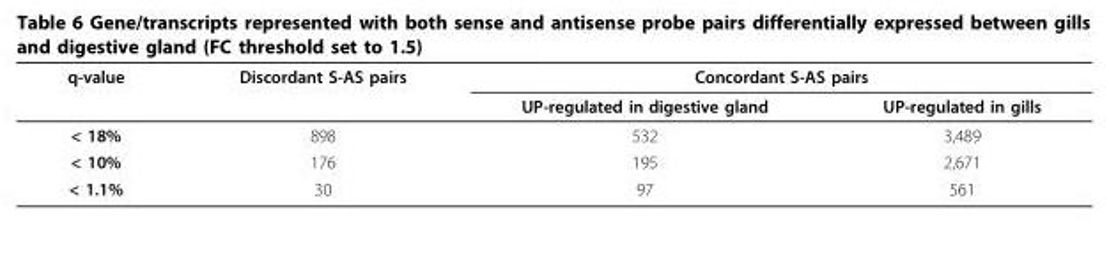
<table><thead><tr><td rowspan="2">q-value</td><td rowspan="2">Discordant S-AS pairs</td><td colspan="2">Concordant S-AS pairs</td></tr><tr><td>UP-regulated in digestive gland</td><td>UP-regulated in gills</td></tr></thead><tbody><tr><td>&lt; 18%</td><td>898</td><td>532</td><td>3,489</td></tr><tr><td>&lt; 10%</td><td>176</td><td>195</td><td>2,671</td></tr><tr><td>&lt; 1.1%</td><td>30</td><td>97</td><td>561</td></tr></tbody></table>